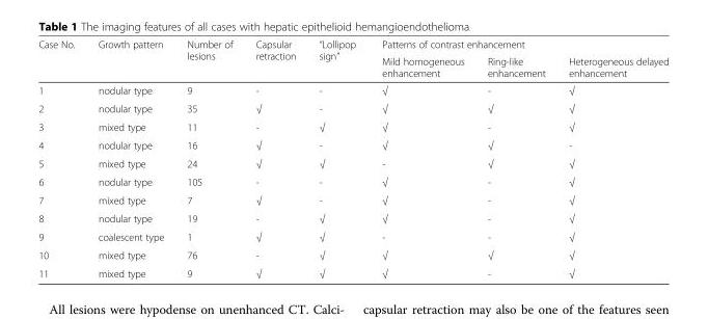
<table><thead><tr><td rowspan="2">Case No.</td><td rowspan="2">Growth pattern</td><td rowspan="2">Number of lesions</td><td rowspan="2">Capsular retraction</td><td rowspan="2">“Lollipop sign”</td><td colspan="3">Patterns of contrast enhancement</td></tr><tr><td>Mild homogeneous enhancement</td><td>Ring-like enhancement</td><td>Heterogeneous delayed enhancement</td></tr></thead><tbody><tr><td>1</td><td>nodular type</td><td>9</td><td>-</td><td>-</td><td>√</td><td>-</td><td>√</td></tr><tr><td>2</td><td>nodular type</td><td>35</td><td>√</td><td>-</td><td>√</td><td>√</td><td>√</td></tr><tr><td>3</td><td>mixed type</td><td>11</td><td>-</td><td>√</td><td>√</td><td>-</td><td>√</td></tr><tr><td>4</td><td>nodular type</td><td>16</td><td>√</td><td>-</td><td>√</td><td>√</td><td>-</td></tr><tr><td>5</td><td>mixed type</td><td>24</td><td>√</td><td>√</td><td>-</td><td>√</td><td>√</td></tr><tr><td>6</td><td>nodular type</td><td>105</td><td>-</td><td>-</td><td>√</td><td>-</td><td>√</td></tr><tr><td>7</td><td>mixed type</td><td>7</td><td>√</td><td>-</td><td>√</td><td>-</td><td>√</td></tr><tr><td>8</td><td>nodular type</td><td>19</td><td>-</td><td>√</td><td>√</td><td>-</td><td>√</td></tr><tr><td>9</td><td>coalescent type</td><td>1</td><td>√</td><td>√</td><td>-</td><td>-</td><td>√</td></tr><tr><td>10</td><td>mixed type</td><td>76</td><td>-</td><td>√</td><td>√</td><td>√</td><td>√</td></tr><tr><td>11</td><td>mixed type</td><td>9</td><td>√</td><td>√</td><td>√</td><td>-</td><td>√</td></tr></tbody></table>